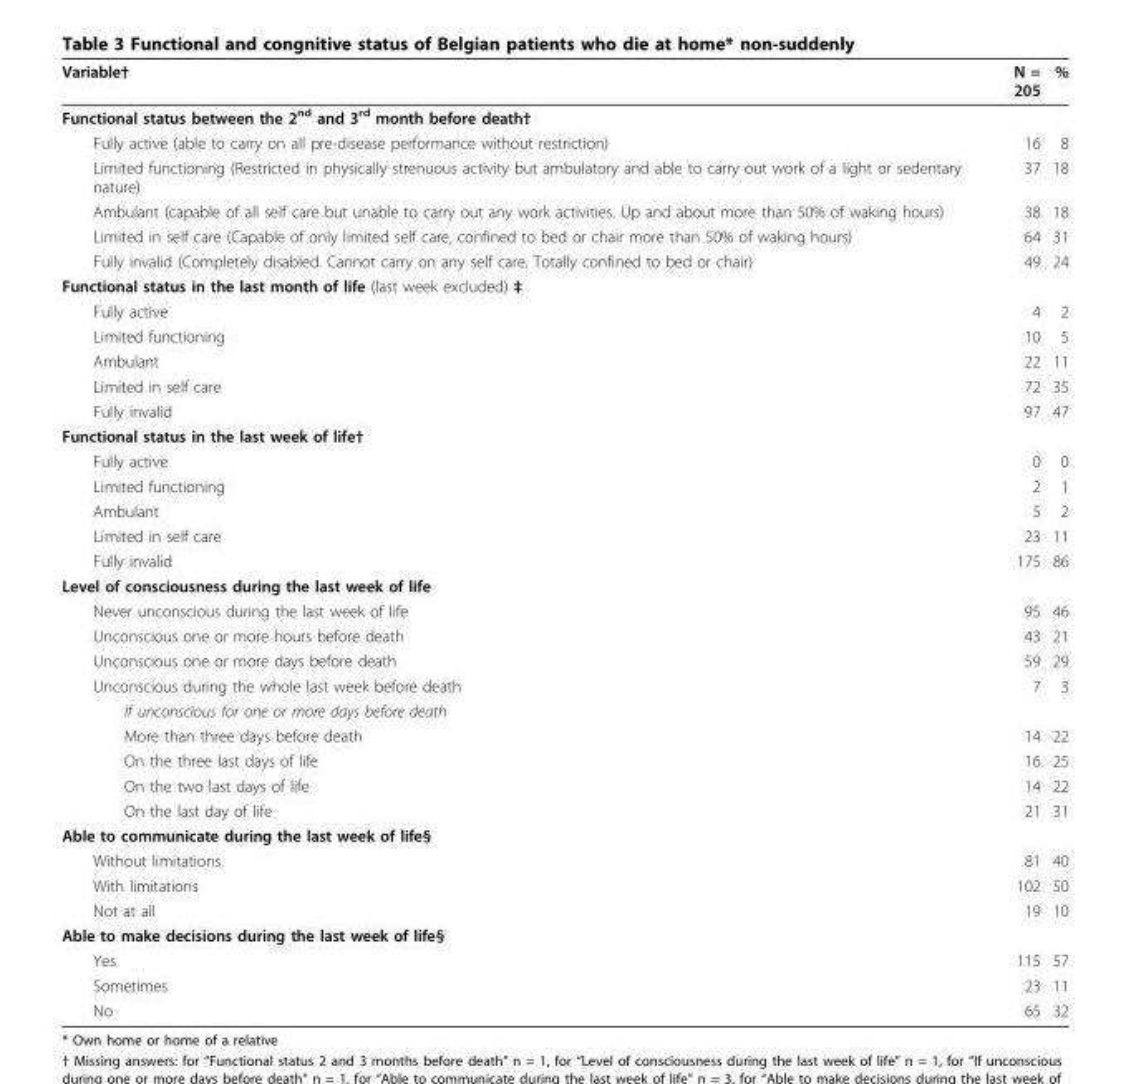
<table><thead><tr><td>Variable†</td><td>N = 205</td><td>%</td></tr></thead><tbody><tr><td colspan="3">Functional status between the 2<sup>nd</sup> and 3<sup>rd</sup> month before death†</td></tr><tr><td>Fully active (able to carry on all pre-disease performance without restriction)</td><td>16</td><td>8</td></tr><tr><td>Limited functioning (Restricted in physically strenuous activity but ambulatory and able to carry out work of a light or sedentary nature)</td><td>37</td><td>18</td></tr><tr><td>Ambulant (capable of all self care but unable to carry out any work activities. Up and about more than 50% of waking hours)</td><td>38</td><td>18</td></tr><tr><td>Limited in self care (Capable of only limited self care, confined to bed or chair more than 50% of waking hours)</td><td>64</td><td>31</td></tr><tr><td>Fully invalid (Completely disabled. Cannot carry on any self care. Totally confined to bed or chair)</td><td>49</td><td>24</td></tr><tr><td colspan="3">Functional status in the last month of life (last week excluded) ‡</td></tr><tr><td>Fully active</td><td>4</td><td>2</td></tr><tr><td>Limited functioning</td><td>10</td><td>5</td></tr><tr><td>Ambulant</td><td>22</td><td>11</td></tr><tr><td>Limited in self care</td><td>72</td><td>35</td></tr><tr><td>Fully invalid</td><td>97</td><td>47</td></tr><tr><td colspan="3">Functional status in the last week of life†</td></tr><tr><td>Fully active</td><td>0</td><td>0</td></tr><tr><td>Limited functioning</td><td>2</td><td>1</td></tr><tr><td>Ambulant</td><td>5</td><td>2</td></tr><tr><td>Limited in self care</td><td>23</td><td>11</td></tr><tr><td>Fully invalid</td><td>175</td><td>86</td></tr><tr><td colspan="3">Level of consciousness during the last week of life</td></tr><tr><td>Never unconscious during the last week of life</td><td>95</td><td>46</td></tr><tr><td>Unconscious one or more hours before death</td><td>43</td><td>21</td></tr><tr><td>Unconscious one or more days before death</td><td>59</td><td>29</td></tr><tr><td>Unconscious during the whole last week before death</td><td>7</td><td>3</td></tr><tr><td colspan="3">If unconscious for one or more days before death</td></tr><tr><td>More than three days before death</td><td>14</td><td>22</td></tr><tr><td>On the three last days of life</td><td>16</td><td>25</td></tr><tr><td>On the two last days of life</td><td>14</td><td>22</td></tr><tr><td>On the last day of life</td><td>21</td><td>31</td></tr><tr><td colspan="3">Able to communicate during the last week of life§</td></tr><tr><td>Without limitations</td><td>81</td><td>40</td></tr><tr><td>With limitations</td><td>102</td><td>50</td></tr><tr><td>Not at all</td><td>19</td><td>10</td></tr><tr><td colspan="3">Able to make decisions during the last week of life§</td></tr><tr><td>Yes</td><td>115</td><td>57</td></tr><tr><td>Sometimes</td><td>23</td><td>11</td></tr><tr><td>No</td><td>65</td><td>32</td></tr></tbody></table>